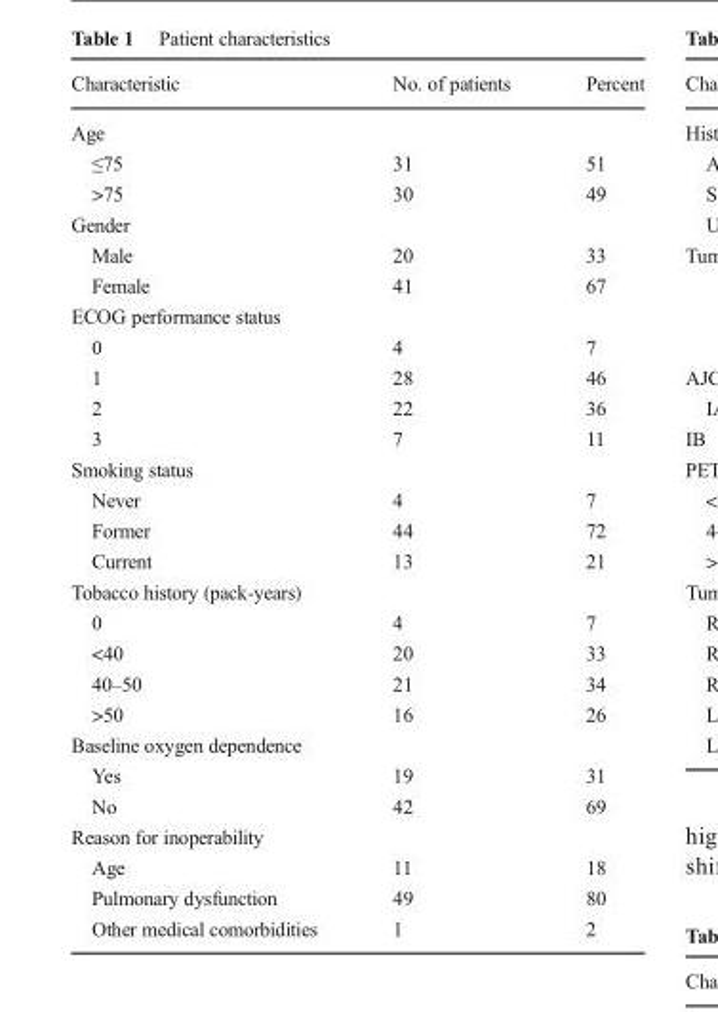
<table><thead><tr><td>Characteristic</td><td>No. of patients</td><td>Percent</td></tr></thead><tbody><tr><td colspan="3">Age</td></tr><tr><td>≤75</td><td>31</td><td>51</td></tr><tr><td>&gt;75</td><td>30</td><td>49</td></tr><tr><td colspan="3">Gender</td></tr><tr><td>Male</td><td>20</td><td>33</td></tr><tr><td>Female</td><td>41</td><td>67</td></tr><tr><td colspan="3">ECOG performance status</td></tr><tr><td>0</td><td>4</td><td>7</td></tr><tr><td>1</td><td>28</td><td>46</td></tr><tr><td>2</td><td>22</td><td>36</td></tr><tr><td>3</td><td>7</td><td>11</td></tr><tr><td colspan="3">Smoking status</td></tr><tr><td>Never</td><td>4</td><td>7</td></tr><tr><td>Former</td><td>44</td><td>72</td></tr><tr><td>Current</td><td>13</td><td>21</td></tr><tr><td colspan="3">Tobacco history (pack-years)</td></tr><tr><td>0</td><td>4</td><td>7</td></tr><tr><td>&lt;40</td><td>20</td><td>33</td></tr><tr><td>40–50</td><td>21</td><td>34</td></tr><tr><td>&gt;50</td><td>16</td><td>26</td></tr><tr><td colspan="3">Baseline oxygen dependence</td></tr><tr><td>Yes</td><td>19</td><td>31</td></tr><tr><td>No</td><td>42</td><td>69</td></tr><tr><td colspan="3">Reason for inoperability</td></tr><tr><td>Age</td><td>11</td><td>18</td></tr><tr><td>Pulmonary dysfunction</td><td>49</td><td>80</td></tr><tr><td>Other medical comorbidities</td><td>1</td><td>2</td></tr></tbody></table>